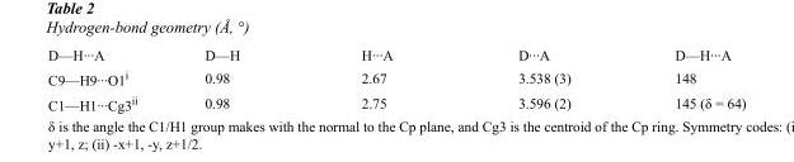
<table><tbody><tr><td>D—H···A</td><td>D—H</td><td>H···A</td><td>D···A</td><td>D—H···A</td></tr><tr><td>C9—H9···O1<sup>i</sup></td><td>0.98</td><td>2.67</td><td>3.538 (3)</td><td>148</td></tr><tr><td>C1—H1···Cg3<sup>ii</sup></td><td>0.98</td><td>2.75</td><td>3.596 (2)</td><td>145 (δ = 64)</td></tr></tbody></table>